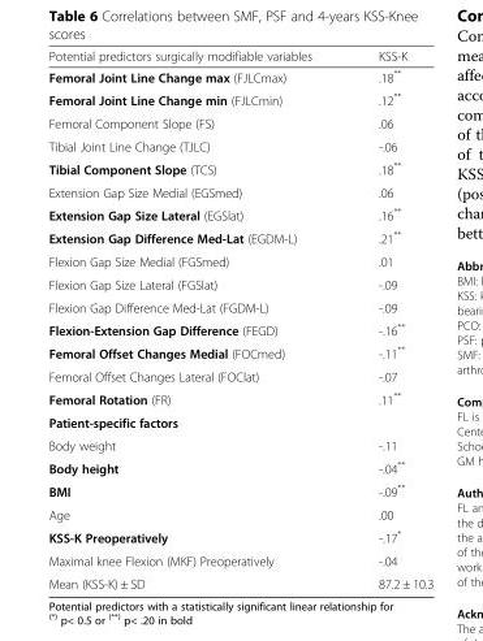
<table><thead><tr><td>Potential predictors surgically modifiable variables</td><td>KSS-K</td></tr></thead><tbody><tr><td>Femoral Joint Line Change max (FJLCmax)</td><td>.18**</td></tr><tr><td>Femoral Joint Line Change min (FJLCmin)</td><td>.12**</td></tr><tr><td>Femoral Component Slope (FS)</td><td>.06</td></tr><tr><td>Tibial Joint Line Change (TJLC)</td><td>-.06</td></tr><tr><td>Tibial Component Slope (TCS)</td><td>.18**</td></tr><tr><td>Extension Gap Size Medial (EGSmed)</td><td>.06</td></tr><tr><td>Extension Gap Size Lateral (EGSlat)</td><td>.16**</td></tr><tr><td>Extension Gap Difference Med-Lat (EGDM-L)</td><td>.21**</td></tr><tr><td>Flexion Gap Size Medial (FGSmed)</td><td>.01</td></tr><tr><td>Flexion Gap Size Lateral (FGSlat)</td><td>-.09</td></tr><tr><td>Flexion Gap Difference Med-Lat (FGDM-L)</td><td>-.09</td></tr><tr><td>Flexion-Extension Gap Difference (FEGD)</td><td>-.16**</td></tr><tr><td>Femoral Offset Changes Medial (FOCmed)</td><td>-.11**</td></tr><tr><td>Femoral Offset Changes Lateral (FOClat)</td><td>-.07</td></tr><tr><td>Femoral Rotation (FR)</td><td>.11**</td></tr><tr><td colspan="2">Patient-specific factors</td></tr><tr><td>Body weight</td><td>-.11</td></tr><tr><td>Body height</td><td>-.04**</td></tr><tr><td>BMI</td><td>-.09**</td></tr><tr><td>Age</td><td>.00</td></tr><tr><td>KSS-K Preoperatively</td><td>-.17*</td></tr><tr><td>Maximal knee Flexion (MKF) Preoperatively</td><td>-.04</td></tr><tr><td>Mean (KSS-K) ± SD</td><td>87.2 ± 10.3</td></tr></tbody></table>